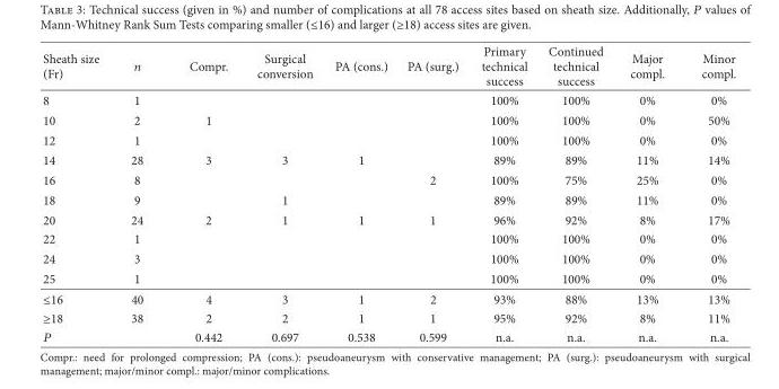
<table><thead><tr><td>Sheath size (Fr)</td><td>𝑛𝑛</td><td>Compr.</td><td>Surgical conversion</td><td>PA (cons.)</td><td>PA (surg.)</td><td>Primary technical success</td><td>Continued technical success</td><td>Major compl.</td><td>Minor compl.</td></tr></thead><tbody><tr><td>8</td><td>1</td><td></td><td></td><td></td><td></td><td>100%</td><td>100%</td><td>0%</td><td>0%</td></tr><tr><td>10</td><td>2</td><td>1</td><td></td><td></td><td></td><td>100%</td><td>100%</td><td>0%</td><td>50%</td></tr><tr><td>12</td><td>1</td><td></td><td></td><td></td><td></td><td>100%</td><td>100%</td><td>0%</td><td>0%</td></tr><tr><td>14</td><td>28</td><td>3</td><td>3</td><td>1</td><td></td><td>89%</td><td>89%</td><td>11%</td><td>14%</td></tr><tr><td>16</td><td>8</td><td></td><td></td><td></td><td>2</td><td>100%</td><td>75%</td><td>25%</td><td>0%</td></tr><tr><td>18</td><td>9</td><td></td><td>1</td><td></td><td></td><td>89%</td><td>89%</td><td>11%</td><td>0%</td></tr><tr><td>20</td><td>24</td><td>2</td><td>1</td><td>1</td><td>1</td><td>96%</td><td>92%</td><td>8%</td><td>17%</td></tr><tr><td>22</td><td>1</td><td></td><td></td><td></td><td></td><td>100%</td><td>100%</td><td>0%</td><td>0%</td></tr><tr><td>24</td><td>3</td><td></td><td></td><td></td><td></td><td>100%</td><td>100%</td><td>0%</td><td>0%</td></tr><tr><td>25</td><td>1</td><td></td><td></td><td></td><td></td><td>100%</td><td>100%</td><td>0%</td><td>0%</td></tr><tr><td>≤16</td><td>40</td><td>4</td><td>3</td><td>1</td><td>2</td><td>93%</td><td>88%</td><td>13%</td><td>13%</td></tr><tr><td>≥18</td><td>38</td><td>2</td><td>2</td><td>1</td><td>1</td><td>95%</td><td>92%</td><td>8%</td><td>11%</td></tr><tr><td>𝑃𝑃</td><td></td><td>0.442</td><td>0.697</td><td>0.538</td><td>0.599</td><td>n.a.</td><td>n.a.</td><td>n.a.</td><td>n.a.</td></tr></tbody></table>